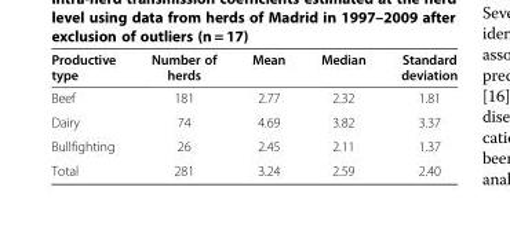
<table><thead><tr><td>Productive type</td><td>Number of herds</td><td>Mean</td><td>Median</td><td>Standard deviation</td></tr></thead><tbody><tr><td>Beef</td><td>181</td><td>2.77</td><td>2.32</td><td>1.81</td></tr><tr><td>Dairy</td><td>74</td><td>4.69</td><td>3.82</td><td>3.37</td></tr><tr><td>Bullfighting</td><td>26</td><td>2.45</td><td>2.11</td><td>1.37</td></tr><tr><td>Total</td><td>281</td><td>3.24</td><td>2.59</td><td>2.40</td></tr></tbody></table>